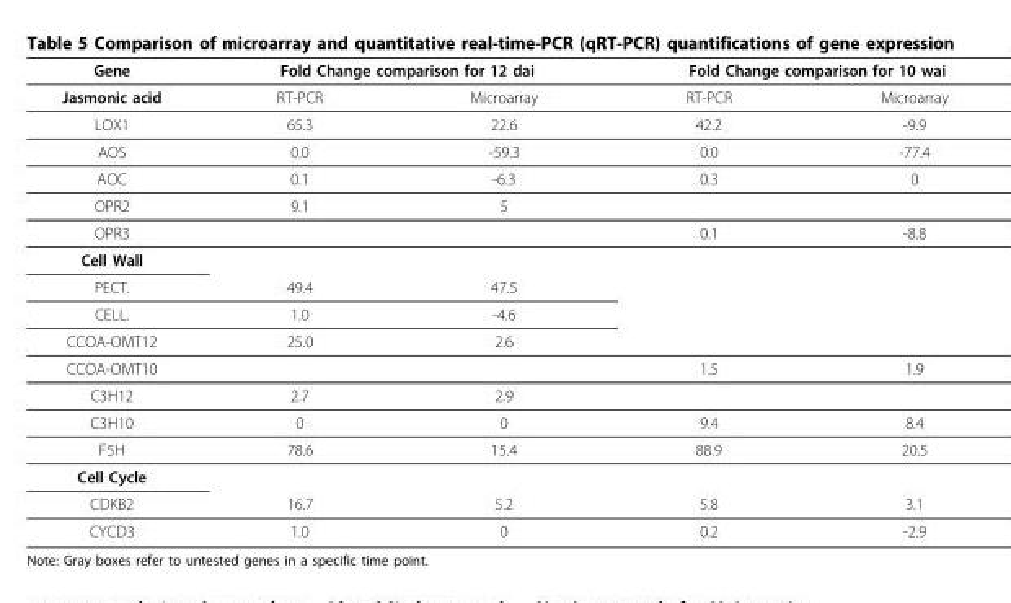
<table><thead><tr><td rowspan="2">Gene Jasmonic acid</td><td colspan="2">Fold Change comparison for 12 dai</td><td colspan="2">Fold Change comparison for 10 wai</td></tr><tr><td>RT-PCR</td><td>Microarray</td><td>RT-PCR</td><td>Microarray</td></tr></thead><tbody><tr><td>LOX1</td><td>65.3</td><td>22.6</td><td>42.2</td><td>-9.9</td></tr><tr><td>AOS</td><td>0.0</td><td>-59.3</td><td>0.0</td><td>-77.4</td></tr><tr><td>AOC</td><td>0.1</td><td>-6.3</td><td>0.3</td><td>0</td></tr><tr><td>OPR2</td><td>9.1</td><td>5</td><td></td><td></td></tr><tr><td>OPR3</td><td></td><td></td><td>0.1</td><td>-8.8</td></tr><tr><td colspan="5">Cell Wall</td></tr><tr><td>PECT.</td><td>49.4</td><td>47.5</td><td></td><td></td></tr><tr><td>CELL.</td><td>1.0</td><td>-4.6</td><td></td><td></td></tr><tr><td>CCOA-OMT12</td><td>25.0</td><td>2.6</td><td></td><td></td></tr><tr><td>CCOA-OMT10</td><td></td><td></td><td>1.5</td><td>1.9</td></tr><tr><td>C3H12</td><td>2.7</td><td>2.9</td><td></td><td></td></tr><tr><td>C3H10</td><td>0</td><td>0</td><td>9.4</td><td>8.4</td></tr><tr><td>F5H</td><td>78.6</td><td>15.4</td><td>88.9</td><td>20.5</td></tr><tr><td colspan="5">Cell Cycle</td></tr><tr><td>CDKB2</td><td>16.7</td><td>5.2</td><td>5.8</td><td>3.1</td></tr><tr><td>CYCD3</td><td>1.0</td><td>0</td><td>0.2</td><td>-2.9</td></tr></tbody></table>